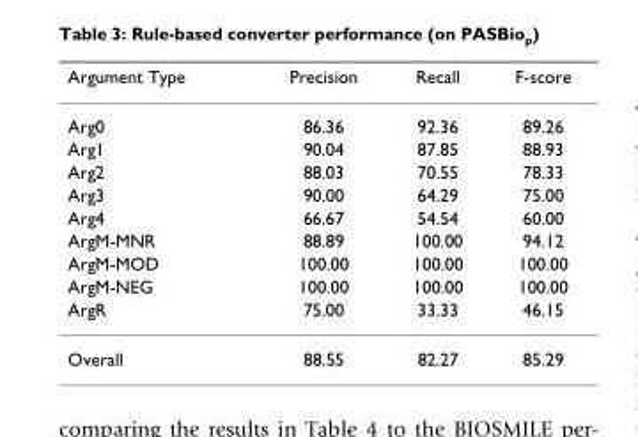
<table><thead><tr><td>Argument Type</td><td>Precision</td><td>Recall</td><td>F-score</td></tr></thead><tbody><tr><td>Arg0</td><td>86.36</td><td>92.36</td><td>89.26</td></tr><tr><td>Arg1</td><td>90.04</td><td>87.85</td><td>88.93</td></tr><tr><td>Arg2</td><td>88.03</td><td>70.55</td><td>78.33</td></tr><tr><td>Arg3</td><td>90.00</td><td>64.29</td><td>75.00</td></tr><tr><td>Arg4</td><td>66.67</td><td>54.54</td><td>60.00</td></tr><tr><td>ArgM-MNR</td><td>88.89</td><td>100.00</td><td>94.12</td></tr><tr><td>ArgM-MOD</td><td>100.00</td><td>100.00</td><td>100.00</td></tr><tr><td>ArgM-NEG</td><td>100.00</td><td>100.00</td><td>100.00</td></tr><tr><td>ArgR</td><td>75.00</td><td>33.33</td><td>46.15</td></tr><tr><td>Overall</td><td>88.55</td><td>82.27</td><td>85.29</td></tr></tbody></table>